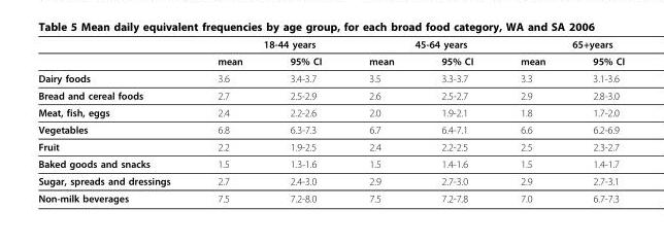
<table><thead><tr><td rowspan="2"></td><td colspan="2">18-44 years</td><td colspan="2">45-64 years</td><td colspan="2">65+years</td></tr><tr><td>mean</td><td>95% CI</td><td>mean</td><td>95% CI</td><td>mean</td><td>95% CI</td></tr></thead><tbody><tr><td>Dairy foods</td><td>3.6</td><td>3.4-3.7</td><td>3.5</td><td>3.3-3.7</td><td>3.3</td><td>3.1-3.6</td></tr><tr><td>Bread and cereal foods</td><td>2.7</td><td>2.5-2.9</td><td>2.6</td><td>2.5-2.7</td><td>2.9</td><td>2.8-3.0</td></tr><tr><td>Meat, fish, eggs</td><td>2.4</td><td>2.2-2.6</td><td>2.0</td><td>1.9-2.1</td><td>1.8</td><td>1.7-2.0</td></tr><tr><td>Vegetables</td><td>6.8</td><td>6.3-7.3</td><td>6.7</td><td>6.4-7.1</td><td>6.6</td><td>6.2-6.9</td></tr><tr><td>Fruit</td><td>2.2</td><td>1.9-2.5</td><td>2.4</td><td>2.2-2.5</td><td>2.5</td><td>2.3-2.7</td></tr><tr><td>Baked goods and snacks</td><td>1.5</td><td>1.3-1.6</td><td>1.5</td><td>1.4-1.6</td><td>1.5</td><td>1.4-1.7</td></tr><tr><td>Sugar, spreads and dressings</td><td>2.7</td><td>2.4-3.0</td><td>2.9</td><td>2.7-3.0</td><td>2.9</td><td>2.7-3.1</td></tr><tr><td>Non-milk beverages</td><td>7.5</td><td>7.2-8.0</td><td>7.5</td><td>7.2-7.8</td><td>7.0</td><td>6.7-7.3</td></tr></tbody></table>